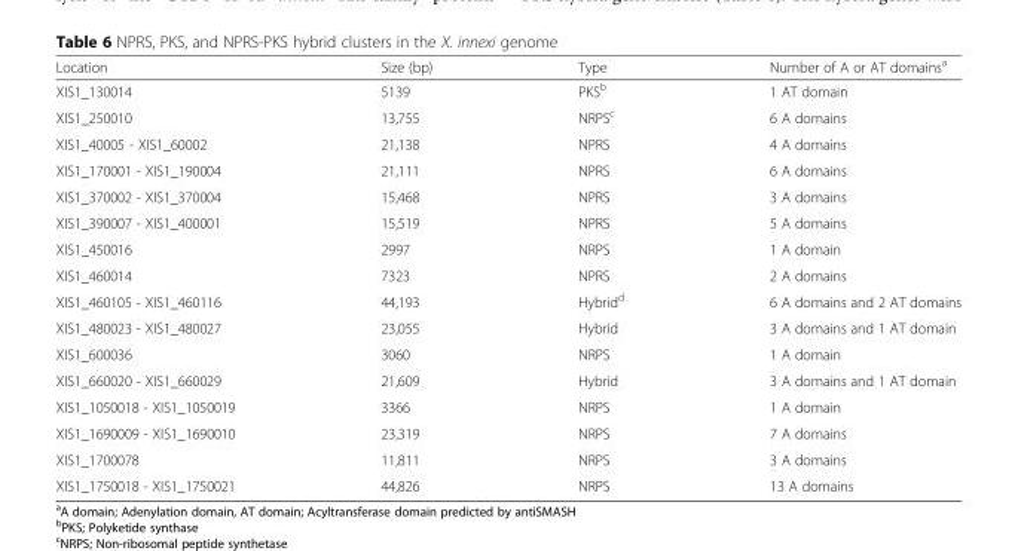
<table><thead><tr><td>Location</td><td>Size (bp)</td><td>Type</td><td>Number of A or AT domains<sup>a</sup></td></tr></thead><tbody><tr><td>XIS1_130014</td><td>5139</td><td>PKS<sup>b</sup></td><td>1 AT domain</td></tr><tr><td>XIS1_250010</td><td>13,755</td><td>NRPS<sup>c</sup></td><td>6 A domains</td></tr><tr><td>XIS1_40005 - XIS1_60002</td><td>21,138</td><td>NPRS</td><td>4 A domains</td></tr><tr><td>XIS1_170001 - XIS1_190004</td><td>21,111</td><td>NPRS</td><td>6 A domains</td></tr><tr><td>XIS1_370002 - XIS1_370004</td><td>15,468</td><td>NPRS</td><td>3 A domains</td></tr><tr><td>XIS1_390007 - XIS1_400001</td><td>15,519</td><td>NPRS</td><td>5 A domains</td></tr><tr><td>XIS1_450016</td><td>2997</td><td>NRPS</td><td>1 A domain</td></tr><tr><td>XIS1_460014</td><td>7323</td><td>NPRS</td><td>2 A domains</td></tr><tr><td>XIS1_460105 - XIS1_460116</td><td>44,193</td><td>Hybrid<sup>d</sup></td><td>6 A domains and 2 AT domains</td></tr><tr><td>XIS1_480023 - XIS1_480027</td><td>23,055</td><td>Hybrid</td><td>3 A domains and 1 AT domain</td></tr><tr><td>XIS1_600036</td><td>3060</td><td>NRPS</td><td>1 A domain</td></tr><tr><td>XIS1_660020 - XIS1_660029</td><td>21,609</td><td>Hybrid</td><td>3 A domains and 1 AT domain</td></tr><tr><td>XIS1_1050018 - XIS1_1050019</td><td>3366</td><td>NRPS</td><td>1 A domain</td></tr><tr><td>XIS1_1690009 - XIS1_1690010</td><td>23,319</td><td>NRPS</td><td>7 A domains</td></tr><tr><td>XIS1_1700078</td><td>11,811</td><td>NRPS</td><td>3 A domains</td></tr><tr><td>XIS1_1750018 - XIS1_1750021</td><td>44,826</td><td>NRPS</td><td>13 A domains</td></tr></tbody></table>